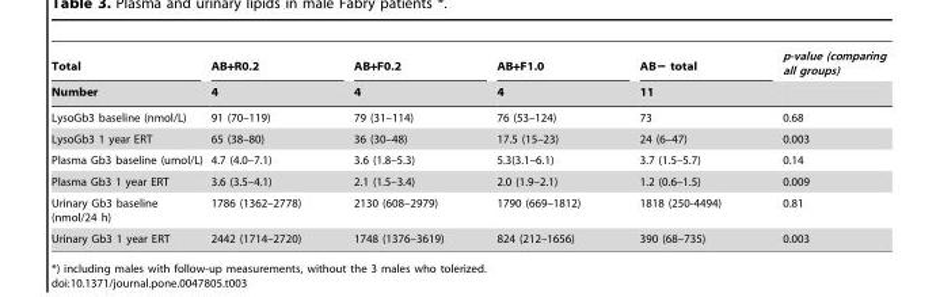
<table><thead><tr><td rowspan="2">Total Number</td><td rowspan="2">AB+R0.2 4</td><td rowspan="2">AB+F0.2 4</td><td rowspan="2">AB+F1.0 4</td><td rowspan="2">AB− total 11</td><td rowspan="2">p-value (comparing all groups)</td></tr><tr></tr></thead><tbody><tr><td>LysoGb3 baseline (nmol/L)</td><td>91 (70–119)</td><td>79 (31–114)</td><td>76 (53–124)</td><td>73</td><td>0.68</td></tr><tr><td>LysoGb3 1 year ERT</td><td>65 (38–80)</td><td>36 (30–48)</td><td>17.5 (15–23)</td><td>24 (6–47)</td><td>0.003</td></tr><tr><td>Plasma Gb3 baseline (umol/L)</td><td>4.7 (4.0–7.1)</td><td>3.6 (1.8–5.3)</td><td>5.3(3.1–6.1)</td><td>3.7 (1.5–5.7)</td><td>0.14</td></tr><tr><td>Plasma Gb3 1 year ERT</td><td>3.6 (3.5–4.1)</td><td>2.1 (1.5–3.4)</td><td>2.0 (1.9–2.1)</td><td>1.2 (0.6–1.5)</td><td>0.009</td></tr><tr><td>Urinary Gb3 baseline (nmol/24 h)</td><td>1786 (1362–2778)</td><td>2130 (608–2979)</td><td>1790 (669–1812)</td><td>1818 (250-4494)</td><td>0.81</td></tr><tr><td>Urinary Gb3 1 year ERT</td><td>2442 (1714–2720)</td><td>1748 (1376–3619)</td><td>824 (212–1656)</td><td>390 (68–735)</td><td>0.003</td></tr></tbody></table>